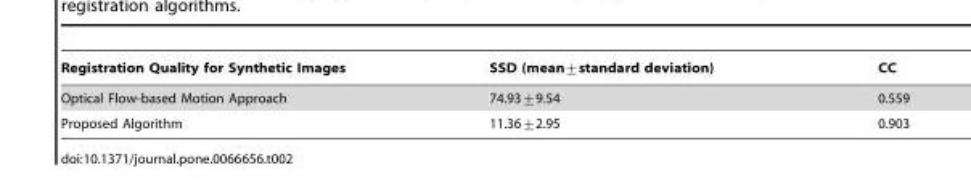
<table><thead><tr><td>Registration Quality for Synthetic Images</td><td>SSD (mean+standard deviation)</td><td>CC</td></tr></thead><tbody><tr><td>Optical Flow-based Motion Approach</td><td>74.93+9.54</td><td>0.559</td></tr><tr><td>Proposed Algorithm</td><td>11.36+2.95</td><td>0.903</td></tr></tbody></table>